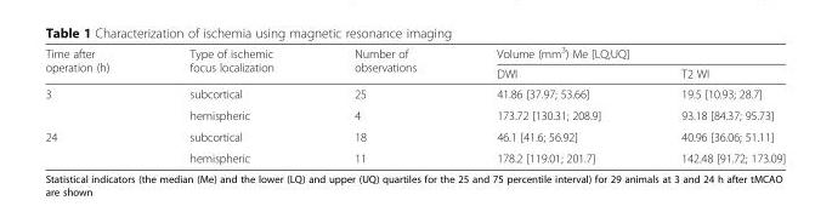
<table><thead><tr><td rowspan="2">Time after operation (h)</td><td rowspan="2">Type of ischemic focus localization</td><td rowspan="2">Number of observations</td><td colspan="2">Volume (mm<sup>3</sup>) Me [LQ;UQ]</td></tr><tr><td>DWI</td><td>T2 WI</td></tr></thead><tbody><tr><td rowspan="2">3</td><td>subcortical</td><td>25</td><td>41.86 [37.97; 53.66]</td><td>19.5 [10.93; 28.7]</td></tr><tr><td>hemispheric</td><td>4</td><td>173.72 [130.31; 208.9]</td><td>93.18 [84.37; 95.73]</td></tr><tr><td rowspan="2">24</td><td>subcortical</td><td>18</td><td>46.1 [41.6; 56.92]</td><td>40.96 [36.06; 51.11]</td></tr><tr><td>hemispheric</td><td>11</td><td>178.2 [119.01; 201.7]</td><td>142.48 [91.72; 173.09]</td></tr></tbody></table>